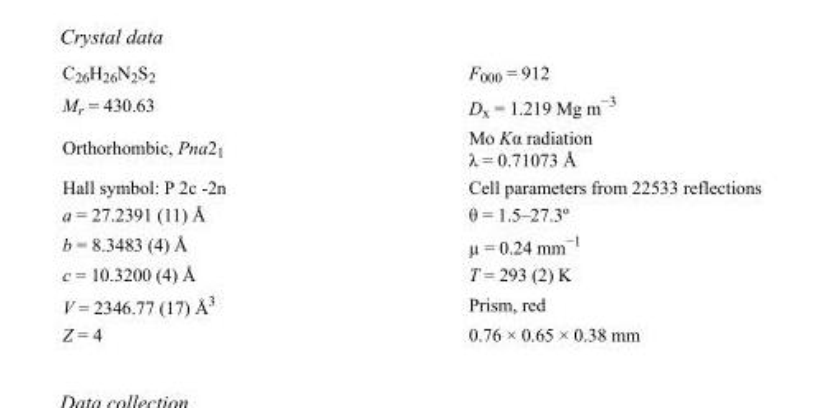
<table><tbody><tr><td>C<sub>26</sub>H<sub>26</sub>N<sub>2</sub>S<sub>2</sub></td><td>F000 = 912</td></tr><tr><td>M<sub>r</sub> = 430.63</td><td>D<sub>x</sub> = 1.219 Mg m<sup>−3</sup></td></tr><tr><td>Orthorhombic, Pna2<sub>1</sub></td><td>Mo Kα radiation λ = 0.71073 Å</td></tr><tr><td>Hall symbol: P 2c -2n</td><td>Cell parameters from 22533 reflections</td></tr><tr><td>a = 27.2391 (11) Å</td><td>θ = 1.5–27.3º</td></tr><tr><td>b = 8.3483 (4) Å</td><td>µ = 0.24 mm<sup>−1</sup></td></tr><tr><td>c = 10.3200 (4) Å</td><td>T = 293 (2) K</td></tr><tr><td>V = 2346.77 (17) Å<sup>3</sup></td><td>Prism, red</td></tr><tr><td>Z = 4</td><td>0.76 × 0.65 × 0.38 mm</td></tr></tbody></table>